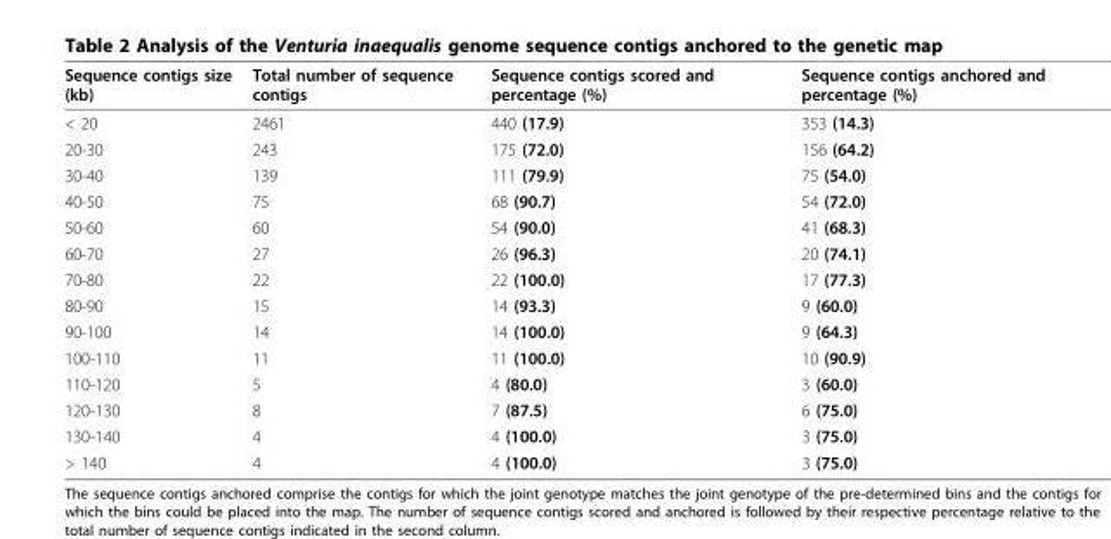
<table><thead><tr><td>Sequence contigs size (kb)</td><td>Total number of sequence contigs</td><td>Sequence contigs scored and percentage (%)</td><td>Sequence contigs anchored and percentage (%)</td></tr></thead><tbody><tr><td>&lt; 20</td><td>2461</td><td>440 (17.9)</td><td>353 (14.3)</td></tr><tr><td>20-30</td><td>243</td><td>175 (72.0)</td><td>156 (64.2)</td></tr><tr><td>30-40</td><td>139</td><td>111 (79.9)</td><td>75 (54.0)</td></tr><tr><td>40-50</td><td>75</td><td>68 (90.7)</td><td>54 (72.0)</td></tr><tr><td>50-60</td><td>60</td><td>54 (90.0)</td><td>41 (68.3)</td></tr><tr><td>60-70</td><td>27</td><td>26 (96.3)</td><td>20 (74.1)</td></tr><tr><td>70-80</td><td>22</td><td>22 (100.0)</td><td>17 (77.3)</td></tr><tr><td>80-90</td><td>15</td><td>14 (93.3)</td><td>9 (60.0)</td></tr><tr><td>90-100</td><td>14</td><td>14 (100.0)</td><td>9 (64.3)</td></tr><tr><td>100-110</td><td>11</td><td>11 (100.0)</td><td>10 (90.9)</td></tr><tr><td>110-120</td><td>5</td><td>4 (80.0)</td><td>3 (60.0)</td></tr><tr><td>120-130</td><td>8</td><td>7 (87.5)</td><td>6 (75.0)</td></tr><tr><td>130-140</td><td>4</td><td>4 (100.0)</td><td>3 (75.0)</td></tr><tr><td>&gt; 140</td><td>4</td><td>4 (100.0)</td><td>3 (75.0)</td></tr></tbody></table>